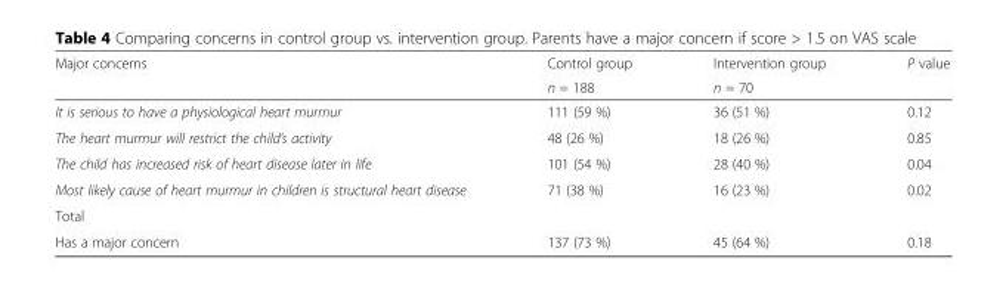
<table><thead><tr><td rowspan="2">Major concerns</td><td rowspan="2">Control group n = 188</td><td rowspan="2">Intervention group n = 70</td><td rowspan="2">P value</td></tr><tr></tr></thead><tbody><tr><td>It is serious to have a physiological heart murmur</td><td>111 (59 %)</td><td>36 (51 %)</td><td>0.12</td></tr><tr><td>The heart murmur will restrict the child’s activity</td><td>48 (26 %)</td><td>18 (26 %)</td><td>0.85</td></tr><tr><td>The child has increased risk of heart disease later in life</td><td>101 (54 %)</td><td>28 (40 %)</td><td>0.04</td></tr><tr><td>Most likely cause of heart murmur in children is structural heart disease</td><td>71 (38 %)</td><td>16 (23 %)</td><td>0.02</td></tr><tr><td colspan="4">Total</td></tr><tr><td>Has a major concern</td><td>137 (73 %)</td><td>45 (64 %)</td><td>0.18</td></tr></tbody></table>